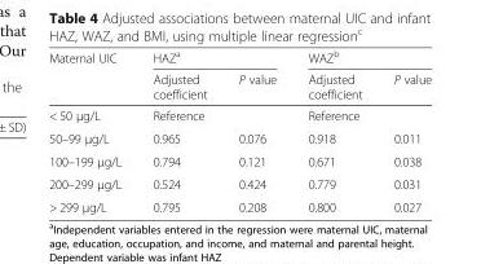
<table><thead><tr><td rowspan="2">Maternal UIC</td><td colspan="2">HAZ<sup>a</sup></td><td colspan="2">WAZ<sup>b</sup></td></tr><tr><td>Adjusted coefficient</td><td>P value</td><td>Adjusted coefficient</td><td>P value</td></tr></thead><tbody><tr><td>&lt; 50 μg/L</td><td>Reference</td><td></td><td>Reference</td><td></td></tr><tr><td>50–99 μg/L</td><td>0.965</td><td>0.076</td><td>0.918</td><td>0.011</td></tr><tr><td>100–199 μg/L</td><td>0.794</td><td>0.121</td><td>0.671</td><td>0.038</td></tr><tr><td>200–299 μg/L</td><td>0.524</td><td>0.424</td><td>0.779</td><td>0.031</td></tr><tr><td>&gt; 299 μg/L</td><td>0.795</td><td>0.208</td><td>0.800</td><td>0.027</td></tr></tbody></table>